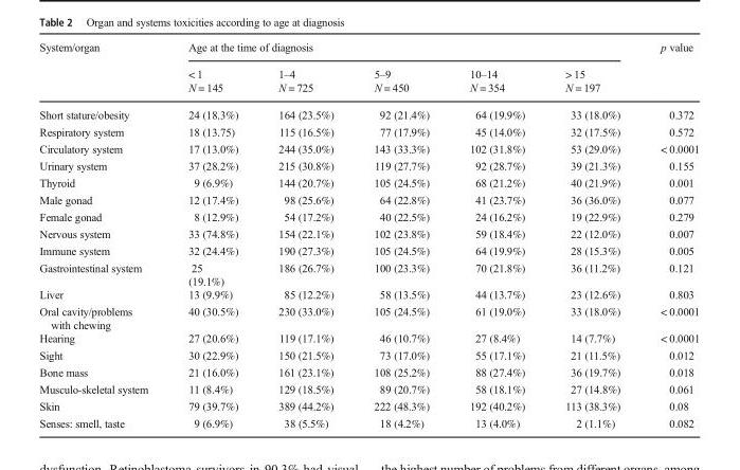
<table><thead><tr><td rowspan="2">System/organ</td><td colspan="5">Age at the time of diagnosis</td><td rowspan="2">p value</td></tr><tr><td>&lt; 1 N = 145</td><td>1–4 N = 725</td><td>5–9 N = 450</td><td>10–14 N = 354</td><td>&gt; 15 N = 197</td></tr></thead><tbody><tr><td>Short stature/obesity</td><td>24 (18.3%)</td><td>164 (23.5%)</td><td>92 (21.4%)</td><td>64 (19.9%)</td><td>33 (18.0%)</td><td>0.372</td></tr><tr><td>Respiratory system</td><td>18 (13.75)</td><td>115 (16.5%)</td><td>77 (17.9%)</td><td>45 (14.0%)</td><td>32 (17.5%)</td><td>0.572</td></tr><tr><td>Circulatory system</td><td>17 (13.0%)</td><td>244 (35.0%)</td><td>143 (33.3%)</td><td>102 (31.8%)</td><td>53 (29.0%)</td><td>&lt; 0.0001</td></tr><tr><td>Urinary system</td><td>37 (28.2%)</td><td>215 (30.8%)</td><td>119 (27.7%)</td><td>92 (28.7%)</td><td>39 (21.3%)</td><td>0.155</td></tr><tr><td>Thyroid</td><td>9 (6.9%)</td><td>144 (20.7%)</td><td>105 (24.5%)</td><td>68 (21.2%)</td><td>40 (21.9%)</td><td>0.001</td></tr><tr><td>Male gonad</td><td>12 (17.4%)</td><td>98 (25.6%)</td><td>64 (22.8%)</td><td>41 (23.7%)</td><td>36 (36.0%)</td><td>0.077</td></tr><tr><td>Female gonad</td><td>8 (12.9%)</td><td>54 (17.2%)</td><td>40 (22.5%)</td><td>24 (16.2%)</td><td>19 (22.9%)</td><td>0.279</td></tr><tr><td>Nervous system</td><td>33 (74.8%)</td><td>154 (22.1%)</td><td>102 (23.8%)</td><td>59 (18.4%)</td><td>22 (12.0%)</td><td>0.007</td></tr><tr><td>Immune system</td><td>32 (24.4%)</td><td>190 (27.3%)</td><td>105 (24.5%)</td><td>64 (19.9%)</td><td>28 (15.3%)</td><td>0.005</td></tr><tr><td>Gastrointestinal system</td><td>25 (19.1%)</td><td>186 (26.7%)</td><td>100 (23.3%)</td><td>70 (21.8%)</td><td>36 (11.2%)</td><td>0.121</td></tr><tr><td>Liver</td><td>13 (9.9%)</td><td>85 (12.2%)</td><td>58 (13.5%)</td><td>44 (13.7%)</td><td>23 (12.6%)</td><td>0.803</td></tr><tr><td>Oral cavity/problems with chewing</td><td>40 (30.5%)</td><td>230 (33.0%)</td><td>105 (24.5%)</td><td>61 (19.0%)</td><td>33 (18.0%)</td><td>&lt; 0.0001</td></tr><tr><td>Hearing</td><td>27 (20.6%)</td><td>119 (17.1%)</td><td>46 (10.7%)</td><td>27 (8.4%)</td><td>14 (7.7%)</td><td>&lt; 0.0001</td></tr><tr><td>Sight</td><td>30 (22.9%)</td><td>150 (21.5%)</td><td>73 (17.0%)</td><td>55 (17.1%)</td><td>21 (11.5%)</td><td>0.012</td></tr><tr><td>Bone mass</td><td>21 (16.0%)</td><td>161 (23.1%)</td><td>108 (25.2%)</td><td>88 (27.4%)</td><td>36 (19.7%)</td><td>0.018</td></tr><tr><td>Musculo-skeletal system</td><td>11 (8.4%)</td><td>129 (18.5%)</td><td>89 (20.7%)</td><td>58 (18.1%)</td><td>27 (14.8%)</td><td>0.061</td></tr><tr><td>Skin</td><td>79 (39.7%)</td><td>389 (44.2%)</td><td>222 (48.3%)</td><td>192 (40.2%)</td><td>113 (38.3%)</td><td>0.08</td></tr><tr><td>Senses: smell, taste</td><td>9 (6.9%)</td><td>38 (5.5%)</td><td>18 (4.2%)</td><td>13 (4.0%)</td><td>2 (1.1%)</td><td>0.082</td></tr></tbody></table>